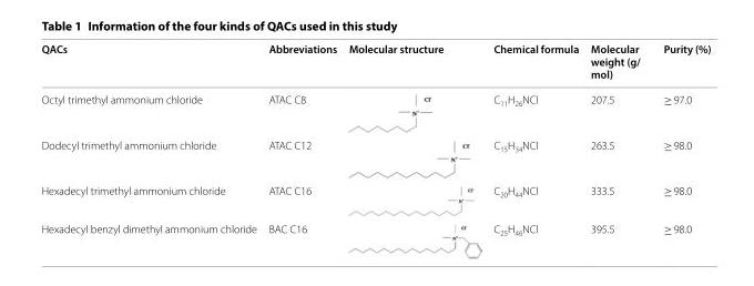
<table><thead><tr><td>QACs</td><td>Abbreviations</td><td>Molecular structure</td><td>Chemical formula</td><td>Molecular weight (g/ mol)</td><td>Purity (%)</td></tr></thead><tbody><tr><td>Octyl trimethyl ammonium chloride</td><td>ATAC C8</td><td></td><td>C<sub>11</sub>H<sub>26</sub>NCl</td><td>207.5</td><td>≥ 97.0</td></tr><tr><td>Dodecyl trimethyl ammonium chloride</td><td>ATAC C12</td><td></td><td>C<sub>15</sub>H<sub>34</sub>NCl</td><td>263.5</td><td>≥ 98.0</td></tr><tr><td>Hexadecyl trimethyl ammonium chloride</td><td>ATAC C16</td><td></td><td>C<sub>20</sub>H<sub>44</sub>NCl</td><td>333.5</td><td>≥ 98.0</td></tr><tr><td>Hexadecyl benzyl dimethyl ammonium chloride</td><td>BAC C16</td><td></td><td>C<sub>25</sub>H<sub>46</sub>NCl</td><td>395.5</td><td>≥ 98.0</td></tr></tbody></table>